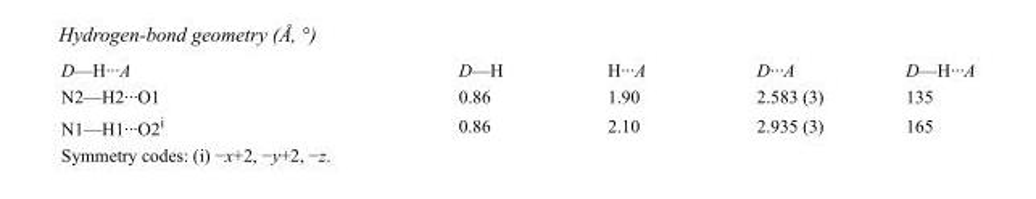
<table><tbody><tr><td>D—H···A</td><td>D—H</td><td>H···A</td><td>D···A</td><td>D—H···A</td></tr><tr><td>N2—H2···O1</td><td>0.86</td><td>1.90</td><td>2.583 (3)</td><td>135</td></tr><tr><td>N1—H1···O2<sup>i</sup></td><td>0.86</td><td>2.10</td><td>2.935 (3)</td><td>165</td></tr></tbody></table>